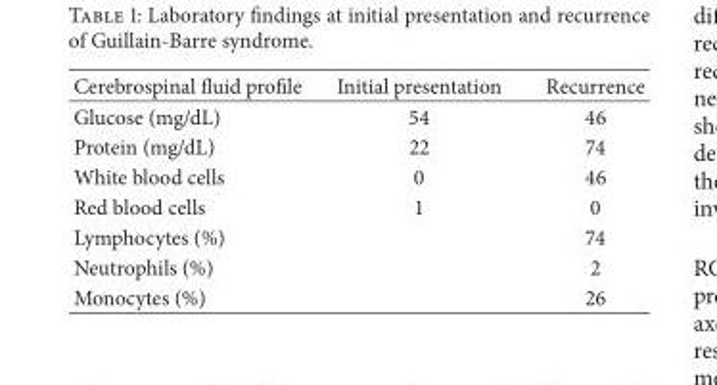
<table><thead><tr><td>Cerebrospinal fluid profile</td><td>Initial presentation</td><td>Recurrence</td></tr></thead><tbody><tr><td>Glucose (mg/dL)</td><td>54</td><td>46</td></tr><tr><td>Protein (mg/dL)</td><td>22</td><td>74</td></tr><tr><td>White blood cells</td><td>0</td><td>46</td></tr><tr><td>Red blood cells</td><td>1</td><td>0</td></tr><tr><td>Lymphocytes (%)</td><td></td><td>74</td></tr><tr><td>Neutrophils (%)</td><td></td><td>2</td></tr><tr><td>Monocytes (%)</td><td></td><td>26</td></tr></tbody></table>